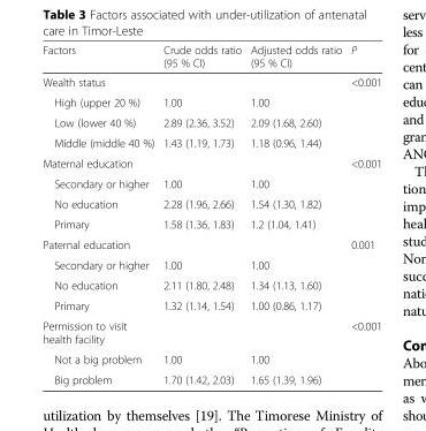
<table><thead><tr><td>Factors</td><td>Crude odds ratio (95 % CI)</td><td>Adjusted odds ratio (95 % CI)</td><td>P</td></tr></thead><tbody><tr><td>Wealth status</td><td></td><td></td><td>&lt;0.001</td></tr><tr><td>High (upper 20 %)</td><td>1.00</td><td>1.00</td><td></td></tr><tr><td>Low (lower 40 %)</td><td>2.89 (2.36, 3.52)</td><td>2.09 (1.68, 2.60)</td><td></td></tr><tr><td>Middle (middle 40 %)</td><td>1.43 (1.19, 1.73)</td><td>1.18 (0.96, 1.44)</td><td></td></tr><tr><td>Maternal education</td><td></td><td></td><td>&lt;0.001</td></tr><tr><td>Secondary or higher</td><td>1.00</td><td>1.00</td><td></td></tr><tr><td>No education</td><td>2.28 (1.96, 2.66)</td><td>1.54 (1.30, 1.82)</td><td></td></tr><tr><td>Primary</td><td>1.58 (1.36, 1.83)</td><td>1.2 (1.04, 1.41)</td><td></td></tr><tr><td>Paternal education</td><td></td><td></td><td>0.001</td></tr><tr><td>Secondary or higher</td><td>1.00</td><td>1.00</td><td></td></tr><tr><td>No education</td><td>2.11 (1.80, 2.48)</td><td>1.34 (1.13, 1.60)</td><td></td></tr><tr><td>Primary</td><td>1.32 (1.14, 1.54)</td><td>1.00 (0.86, 1.17)</td><td></td></tr><tr><td>Permission to visit health facility</td><td></td><td></td><td>&lt;0.001</td></tr><tr><td>Not a big problem</td><td>1.00</td><td>1.00</td><td></td></tr><tr><td>Big problem</td><td>1.70 (1.42, 2.03)</td><td>1.65 (1.39, 1.96)</td><td></td></tr></tbody></table>